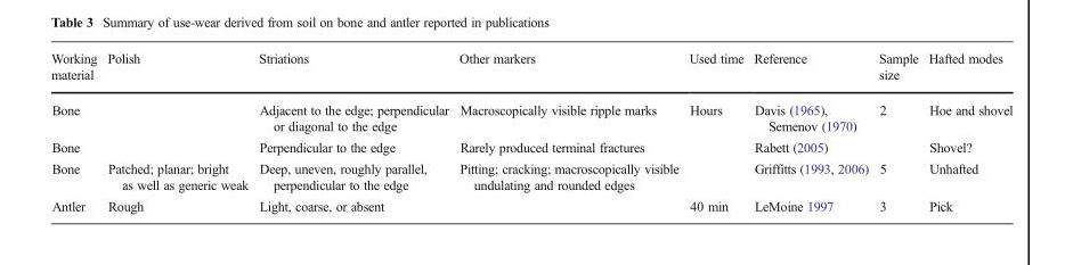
<table><thead><tr><td>Working material</td><td>Polish</td><td>Striations</td><td>Other markers</td><td>Used time</td><td>Reference</td><td>Sample size</td><td>Hafted modes</td></tr></thead><tbody><tr><td>Bone</td><td></td><td>Adjacent to the edge; perpendicular or diagonal to the edge</td><td>Macroscopically visible ripple marks</td><td>Hours</td><td>Davis (1965), Semenov (1970)</td><td>2</td><td>Hoe and shovel</td></tr><tr><td>Bone</td><td></td><td>Perpendicular to the edge</td><td>Rarely produced terminal fractures</td><td></td><td>Rabett (2005)</td><td></td><td>Shovel?</td></tr><tr><td>Bone</td><td>Patched; planar; bright as well as generic weak</td><td>Deep, uneven, roughly parallel, perpendicular to the edge</td><td>Pitting; cracking; macroscopically visible undulating and rounded edges</td><td></td><td>Griffitts (1993, 2006)</td><td>5</td><td>Unhafted</td></tr><tr><td>Antler</td><td>Rough</td><td>Light, coarse, or absent</td><td></td><td>40 min</td><td>LeMoine 1997</td><td>3</td><td>Pick</td></tr></tbody></table>